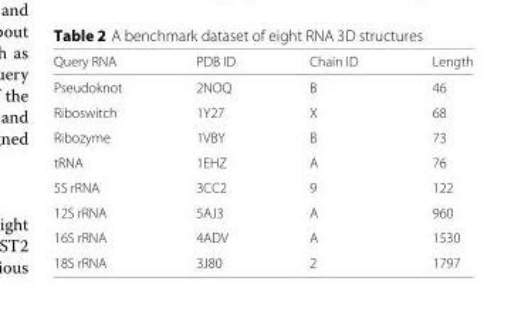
<table><thead><tr><td>Query RNA</td><td>PDB ID</td><td>Chain ID</td><td>Length</td></tr></thead><tbody><tr><td>Pseudoknot</td><td>2NOQ</td><td>B</td><td>46</td></tr><tr><td>Riboswitch</td><td>1Y27</td><td>X</td><td>68</td></tr><tr><td>Ribozyme</td><td>1VBY</td><td>B</td><td>73</td></tr><tr><td>tRNA</td><td>1EHZ</td><td>A</td><td>76</td></tr><tr><td>5S rRNA</td><td>3CC2</td><td>9</td><td>122</td></tr><tr><td>12S rRNA</td><td>5AJ3</td><td>A</td><td>960</td></tr><tr><td>16S rRNA</td><td>4ADV</td><td>A</td><td>1530</td></tr><tr><td>18S rRNA</td><td>3J80</td><td>2</td><td>1797</td></tr></tbody></table>